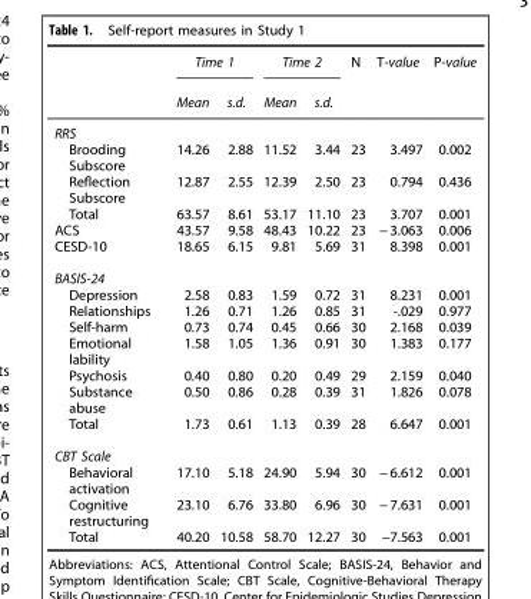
<table><thead><tr><td rowspan="2"></td><td colspan="2">Time 1</td><td colspan="2">Time 2</td><td rowspan="2">N</td><td rowspan="2">T-value</td><td rowspan="2">P-value</td></tr><tr><td>Mean</td><td>s.d.</td><td>Mean</td><td>s.d.</td></tr></thead><tbody><tr><td colspan="8">RRS</td></tr><tr><td>Brooding Subscore</td><td>14.26</td><td>2.88</td><td>11.52</td><td>3.44</td><td>23</td><td>3.497</td><td>0.002</td></tr><tr><td>Reflection Subscore</td><td>12.87</td><td>2.55</td><td>12.39</td><td>2.50</td><td>23</td><td>0.794</td><td>0.436</td></tr><tr><td>Total</td><td>63.57</td><td>8.61</td><td>53.17</td><td>11.10</td><td>23</td><td>3.707</td><td>0.001</td></tr><tr><td>ACS</td><td>43.57</td><td>9.58</td><td>48.43</td><td>10.22</td><td>23</td><td>− 3.063</td><td>0.006</td></tr><tr><td>CESD-10</td><td>18.65</td><td>6.15</td><td>9.81</td><td>5.69</td><td>31</td><td>8.398</td><td>0.001</td></tr><tr><td colspan="8">BASIS-24</td></tr><tr><td>Depression</td><td>2.58</td><td>0.83</td><td>1.59</td><td>0.72</td><td>31</td><td>8.231</td><td>0.001</td></tr><tr><td>Relationships</td><td>1.26</td><td>0.71</td><td>1.26</td><td>0.85</td><td>31</td><td>-.029</td><td>0.977</td></tr><tr><td>Self-harm</td><td>0.73</td><td>0.74</td><td>0.45</td><td>0.66</td><td>30</td><td>2.168</td><td>0.039</td></tr><tr><td>Emotional lability</td><td>1.58</td><td>1.05</td><td>1.36</td><td>0.91</td><td>30</td><td>1.383</td><td>0.177</td></tr><tr><td>Psychosis</td><td>0.40</td><td>0.80</td><td>0.20</td><td>0.49</td><td>29</td><td>2.159</td><td>0.040</td></tr><tr><td>Substance abuse</td><td>0.50</td><td>0.86</td><td>0.28</td><td>0.39</td><td>31</td><td>1.826</td><td>0.078</td></tr><tr><td>Total</td><td>1.73</td><td>0.61</td><td>1.13</td><td>0.39</td><td>28</td><td>6.647</td><td>0.001</td></tr><tr><td colspan="8">CBT Scale</td></tr><tr><td>Behavioral activation</td><td>17.10</td><td>5.18</td><td>24.90</td><td>5.94</td><td>30</td><td>− 6.612</td><td>0.001</td></tr><tr><td>Cognitive restructuring</td><td>23.10</td><td>6.76</td><td>33.80</td><td>6.96</td><td>30</td><td>− 7.631</td><td>0.001</td></tr><tr><td>Total</td><td>40.20</td><td>10.58</td><td>58.70</td><td>12.27</td><td>30</td><td>−7.563</td><td>0.001</td></tr></tbody></table>